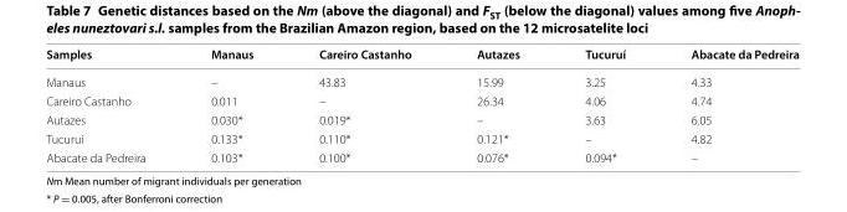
<table><thead><tr><td>Samples</td><td>Manaus</td><td>Careiro Castanho</td><td>Autazes</td><td>Tucuruí</td><td>Abacate da Pedreira</td></tr></thead><tbody><tr><td>Manaus</td><td>–</td><td>43.83</td><td>15.99</td><td>3.25</td><td>4.33</td></tr><tr><td>Careiro Castanho</td><td>0.011</td><td>–</td><td>26.34</td><td>4.06</td><td>4.74</td></tr><tr><td>Autazes</td><td>0.030*</td><td>0.019*</td><td>–</td><td>3.63</td><td>6.05</td></tr><tr><td>Tucuruí</td><td>0.133*</td><td>0.110*</td><td>0.121*</td><td>–</td><td>4.82</td></tr><tr><td>Abacate da Pedreira</td><td>0.103*</td><td>0.100*</td><td>0.076*</td><td>0.094*</td><td>–</td></tr></tbody></table>